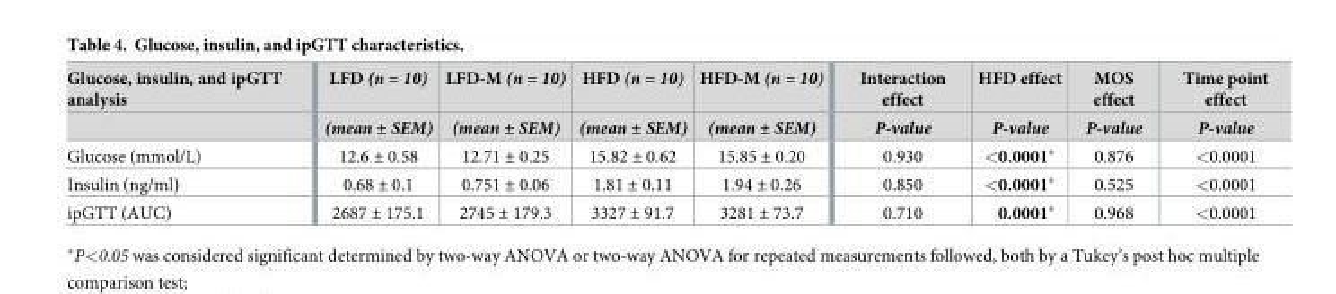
<table><thead><tr><td rowspan="2">Glucose, insulin, and ipGTT analysis</td><td rowspan="2">LFD (n = 10) (mean ± SEM)</td><td rowspan="2">LFD-M (n = 10) (mean ± SEM)</td><td rowspan="2">HFD (n = 10) (mean ± SEM)</td><td rowspan="2">HFD-M (n = 10) (mean ± SEM)</td><td rowspan="2">Interaction effect P-value</td><td rowspan="2">HFD effect P-value</td><td rowspan="2">MOS effect P-value</td><td rowspan="2">Time point effect P-value</td></tr><tr></tr></thead><tbody><tr><td>Glucose (mmol/L)</td><td>12.6 ± 0.58</td><td>12.71 ± 0.25</td><td>15.82 ± 0.62</td><td>15.85 ± 0.20</td><td>0.930</td><td>&lt;0.0001*</td><td>0.876</td><td>&lt;0.0001</td></tr><tr><td>Insulin (ng/ml)</td><td>0.68 ± 0.1</td><td>0.751 ± 0.06</td><td>1.81 ± 0.11</td><td>1.94 ± 0.26</td><td>0.850</td><td>&lt;0.0001*</td><td>0.525</td><td>&lt;0.0001</td></tr><tr><td>ipGTT (AUC)</td><td>2687 ± 175.1</td><td>2745 ± 179.3</td><td>3327 ± 91.7</td><td>3281 ± 73.7</td><td>0.710</td><td>0.0001*</td><td>0.968</td><td>&lt;0.0001</td></tr></tbody></table>